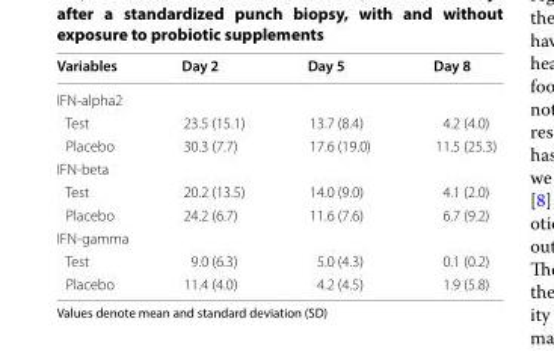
<table><thead><tr><td>Variables</td><td>Day 2</td><td>Day 5</td><td>Day 8</td></tr></thead><tbody><tr><td colspan="4">IFN‑alpha2</td></tr><tr><td>Test</td><td>23.5 (15.1)</td><td>13.7 (8.4)</td><td>4.2 (4.0)</td></tr><tr><td>Placebo</td><td>30.3 (7.7)</td><td>17.6 (19.0)</td><td>11.5 (25.3)</td></tr><tr><td colspan="4">IFN‑beta</td></tr><tr><td>Test</td><td>20.2 (13.5)</td><td>14.0 (9.0)</td><td>4.1 (2.0)</td></tr><tr><td>Placebo</td><td>24.2 (6.7)</td><td>11.6 (7.6)</td><td>6.7 (9.2)</td></tr><tr><td colspan="4">IFN‑gamma</td></tr><tr><td>Test</td><td>9.0 (6.3)</td><td>5.0 (4.3)</td><td>0.1 (0.2)</td></tr><tr><td>Placebo</td><td>11.4 (4.0)</td><td>4.2 (4.5)</td><td>1.9 (5.8)</td></tr></tbody></table>